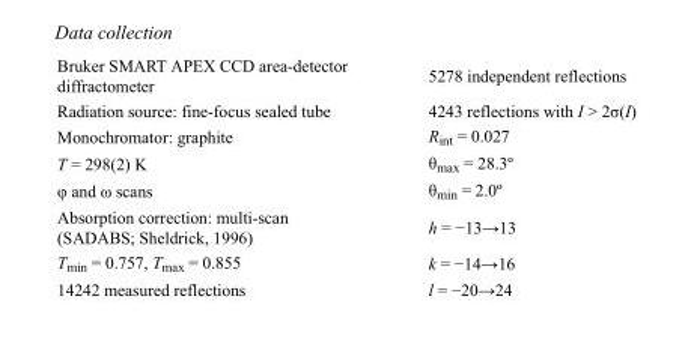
<table><tbody><tr><td>Bruker SMART APEX CCD area-detector diffractometer</td><td>5278 independent reflections</td></tr><tr><td>Radiation source: fine-focus sealed tube</td><td>4243 reflections with I &gt; 2σ(I)</td></tr><tr><td>Monochromator: graphite</td><td>R<sub>int</sub> = 0.027</td></tr><tr><td>T = 298(2) K</td><td>θ<sub>max</sub> = 28.3º</td></tr><tr><td>φ and ω scans</td><td>θ<sub>min</sub> = 2.0º</td></tr><tr><td>Absorption correction: multi-scan (SADABS; Sheldrick, 1996)</td><td>h = −13→13</td></tr><tr><td>T<sub>min</sub> = 0.757, T<sub>max</sub> = 0.855</td><td>k = −14→16</td></tr><tr><td>14242 measured reflections</td><td>l = −20→24</td></tr></tbody></table>